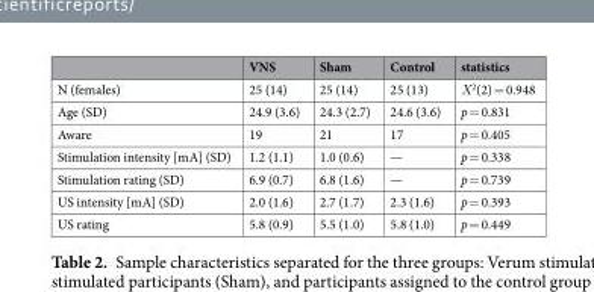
<table><thead><tr><td></td><td>VNS</td><td>Sham</td><td>Control</td><td>statistics</td></tr></thead><tbody><tr><td>N (females)</td><td>25 (14)</td><td>25 (14)</td><td>25 (13)</td><td>Χ<sup>2</sup>(2) = 0.948</td></tr><tr><td>Age (SD)</td><td>24.9 (3.6)</td><td>24.3 (2.7)</td><td>24.6 (3.6)</td><td>p = 0.831</td></tr><tr><td>Aware</td><td>19</td><td>21</td><td>17</td><td>p = 0.405</td></tr><tr><td>Stimulation intensity [mA] (SD)</td><td>1.2 (1.1)</td><td>1.0 (0.6)</td><td>—</td><td>p = 0.338</td></tr><tr><td>Stimulation rating (SD)</td><td>6.9 (0.7)</td><td>6.8 (1.6)</td><td>—</td><td>p = 0.739</td></tr><tr><td>US intensity [mA] (SD)</td><td>2.0 (1.6)</td><td>2.7 (1.7)</td><td>2.3 (1.6)</td><td>p = 0.393</td></tr><tr><td>US rating</td><td>5.8 (0.9)</td><td>5.5 (1.0)</td><td>5.8 (1.0)</td><td>p = 0.449</td></tr></tbody></table>